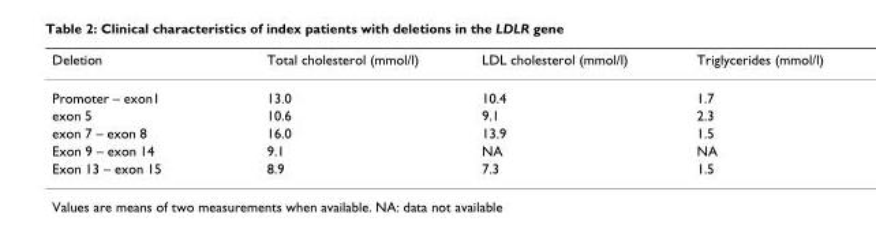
<table><thead><tr><td>Deletion</td><td>Total cholesterol (mmol/l)</td><td>LDL cholesterol (mmol/l)</td><td>Triglycerides (mmol/l)</td></tr></thead><tbody><tr><td>Promoter – exon1</td><td>13.0</td><td>10.4</td><td>1.7</td></tr><tr><td>exon 5</td><td>10.6</td><td>9.1</td><td>2.3</td></tr><tr><td>exon 7 – exon 8</td><td>16.0</td><td>13.9</td><td>1.5</td></tr><tr><td>Exon 9 – exon 14</td><td>9.1</td><td>NA</td><td>NA</td></tr><tr><td>Exon 13 – exon 15</td><td>8.9</td><td>7.3</td><td>1.5</td></tr></tbody></table>